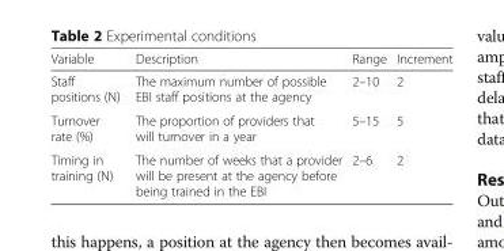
<table><thead><tr><td>Variable</td><td>Description</td><td>Range</td><td>Increment</td></tr></thead><tbody><tr><td>Staff positions (N)</td><td>The maximum number of possible EBI staff positions at the agency</td><td>2–10</td><td>2</td></tr><tr><td>Turnover rate (%)</td><td>The proportion of providers that will turnover in a year</td><td>5–15</td><td>5</td></tr><tr><td>Timing in training (N)</td><td>The number of weeks that a provider will be present at the agency before being trained in the EBI</td><td>2–6</td><td>2</td></tr></tbody></table>